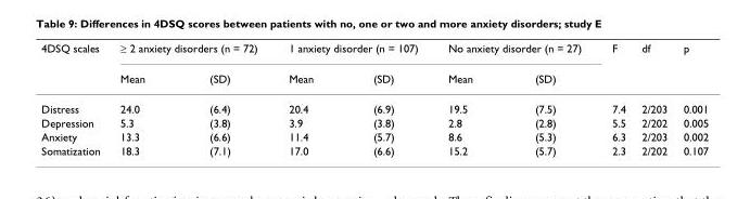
<table><thead><tr><td rowspan="2">4DSQ scales</td><td colspan="2">≥ 2 anxiety disorders (n = 72)</td><td colspan="2">1 anxiety disorder (n = 107)</td><td colspan="2">No anxiety disorder (n = 27)</td><td rowspan="2">F</td><td rowspan="2">df</td><td rowspan="2">p</td></tr><tr><td>Mean</td><td>(SD)</td><td>Mean</td><td>(SD)</td><td>Mean</td><td>(SD)</td></tr></thead><tbody><tr><td>Distress</td><td>24.0</td><td>(6.4)</td><td>20.4</td><td>(6.9)</td><td>19.5</td><td>(7.5)</td><td>7.4</td><td>2/203</td><td>0.001</td></tr><tr><td>Depression</td><td>5.3</td><td>(3.8)</td><td>3.9</td><td>(3.8)</td><td>2.8</td><td>(2.8)</td><td>5.5</td><td>2/202</td><td>0.005</td></tr><tr><td>Anxiety</td><td>13.3</td><td>(6.6)</td><td>11.4</td><td>(5.7)</td><td>8.6</td><td>(5.3)</td><td>6.3</td><td>2/203</td><td>0.002</td></tr><tr><td>Somatization</td><td>18.3</td><td>(7.1)</td><td>17.0</td><td>(6.6)</td><td>15.2</td><td>(5.7)</td><td>2.3</td><td>2/202</td><td>0.107</td></tr></tbody></table>